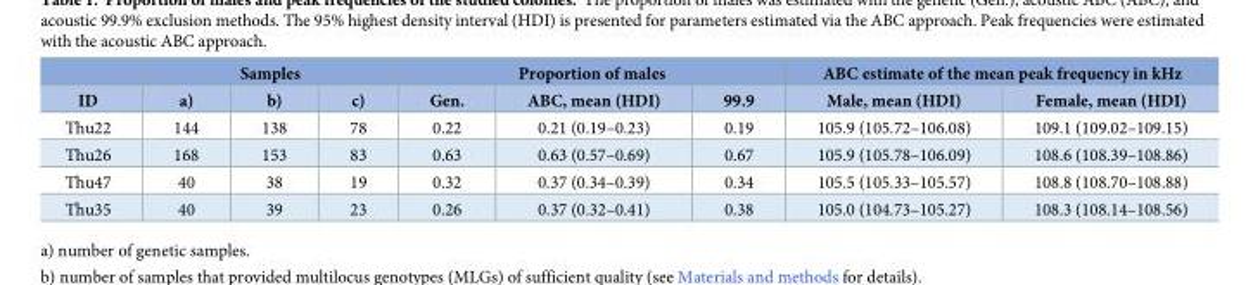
<table><thead><tr><td rowspan="2">ID</td><td colspan="3">Samples</td><td colspan="3">Proportion of males</td><td colspan="2">ABC estimate of the mean peak frequency in kHz</td></tr><tr><td>a)</td><td>b)</td><td>c)</td><td>Gen.</td><td>ABC, mean (HDI)</td><td>99.9</td><td>Male, mean (HDI)</td><td>Female, mean (HDI)</td></tr></thead><tbody><tr><td>Thu22</td><td>144</td><td>138</td><td>78</td><td>0.22</td><td>0.21 (0.19–0.23)</td><td>0.19</td><td>105.9 (105.72–106.08)</td><td>109.1 (109.02–109.15)</td></tr><tr><td>Thu26</td><td>168</td><td>153</td><td>83</td><td>0.63</td><td>0.63 (0.57–0.69)</td><td>0.67</td><td>105.9 (105.78–106.09)</td><td>108.6 (108.39–108.86)</td></tr><tr><td>Thu47</td><td>40</td><td>38</td><td>19</td><td>0.32</td><td>0.37 (0.34–0.39)</td><td>0.34</td><td>105.5 (105.33–105.57)</td><td>108.8 (108.70–108.88)</td></tr><tr><td>Thu35</td><td>40</td><td>39</td><td>23</td><td>0.26</td><td>0.37 (0.32–0.41)</td><td>0.38</td><td>105.0 (104.73–105.27)</td><td>108.3 (108.14–108.56)</td></tr></tbody></table>